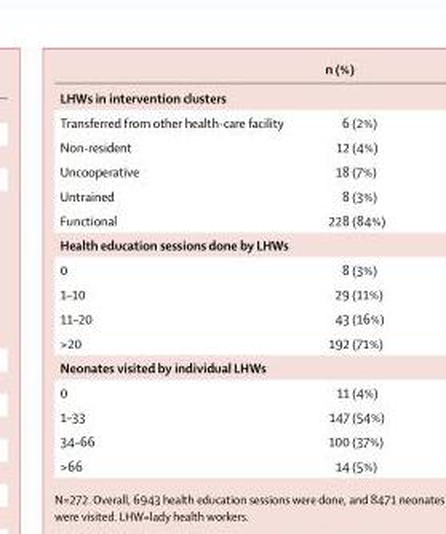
<table><thead><tr><td></td><td>n (%)</td></tr></thead><tbody><tr><td colspan="2">LHWs in intervention clusters</td></tr><tr><td>Transferred from other health-care facility</td><td>6 (2%)</td></tr><tr><td>Non-resident</td><td>12 (4%)</td></tr><tr><td>Uncooperative</td><td>18 (7%)</td></tr><tr><td>Untrained</td><td>8 (3%)</td></tr><tr><td>Functional</td><td>228 (84%)</td></tr><tr><td colspan="2">Health education sessions done by LHWs</td></tr><tr><td>0</td><td>8 (3%)</td></tr><tr><td>1–10</td><td>29 (11%)</td></tr><tr><td>11–20</td><td>43 (16%)</td></tr><tr><td>&gt;20</td><td>192 (71%)</td></tr><tr><td colspan="2">Neonates visited by individual LHWs</td></tr><tr><td>0</td><td>11 (4%)</td></tr><tr><td>1–33</td><td>147 (54%)</td></tr><tr><td>34–66</td><td>100 (37%)</td></tr><tr><td>&gt;66</td><td>14 (5%)</td></tr></tbody></table>